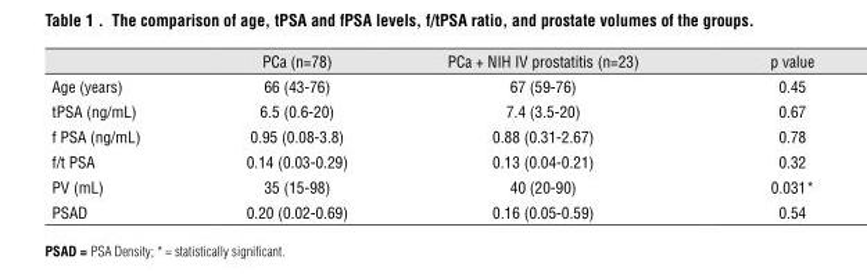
<table><thead><tr><td></td><td>PCa (n=78)</td><td>PCa + NIH IV prostatitis (n=23)</td><td>p value</td></tr></thead><tbody><tr><td>Age (years)</td><td>66 (43-76)</td><td>67 (59-76)</td><td>0.45</td></tr><tr><td>tPSA (ng/mL)</td><td>6.5 (0.6-20)</td><td>7.4 (3.5-20)</td><td>0.67</td></tr><tr><td>f PSA (ng/mL)</td><td>0.95 (0.08-3.8)</td><td>0.88 (0.31-2.67)</td><td>0.78</td></tr><tr><td>f/t PSA</td><td>0.14 (0.03-0.29)</td><td>0.13 (0.04-0.21)</td><td>0.32</td></tr><tr><td>PV (mL)</td><td>35 (15-98)</td><td>40 (20-90)</td><td>0.031*</td></tr><tr><td>PSAD</td><td>0.20 (0.02-0.69)</td><td>0.16 (0.05-0.59)</td><td>0.54</td></tr></tbody></table>